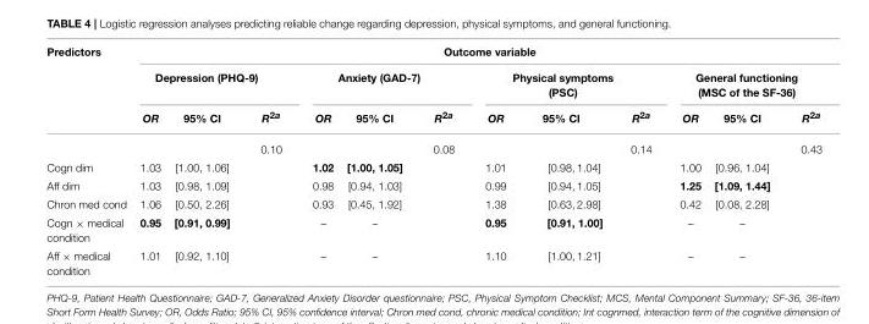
<table><thead><tr><td rowspan="3">Predictors</td><td colspan="12">Outcome variable</td></tr><tr><td colspan="3">Depression (PHQ-9)</td><td colspan="3">Anxiety (GAD-7)</td><td colspan="3">Physical symptoms (PSC)</td><td colspan="3">General functioning (MSC of the SF-36)</td></tr><tr><td>OR</td><td>95% CI</td><td>R<sup>2a</sup></td><td>OR</td><td>95% CI</td><td>R2a</td><td>OR</td><td>95% CI</td><td>R2a</td><td>OR</td><td>95% CI</td><td>R2a</td></tr></thead><tbody><tr><td></td><td></td><td></td><td>0.10</td><td></td><td></td><td>0.08</td><td></td><td></td><td>0.14</td><td></td><td></td><td>0.43</td></tr><tr><td>Cogn dim</td><td>1.03</td><td>[1.00, 1.06]</td><td></td><td>1.02</td><td>[1.00, 1.05]</td><td></td><td>1.01</td><td>[0.98, 1.04]</td><td></td><td>1.00</td><td>[0.96, 1.04]</td><td></td></tr><tr><td>Aff dim</td><td>1.03</td><td>[0.98, 1.09]</td><td></td><td>0.98</td><td>[0.94, 1.03]</td><td></td><td>0.99</td><td>[0.94, 1.05]</td><td></td><td>1.25</td><td>[1.09, 1.44]</td><td></td></tr><tr><td>Chron med cond</td><td>1.06</td><td>[0.50, 2.26]</td><td></td><td>0.93</td><td>[0.45, 1.92]</td><td></td><td>1.38</td><td>[0.63, 2.98]</td><td></td><td>0.42</td><td>[0.08, 2.28]</td><td></td></tr><tr><td>Cogn × medical condition</td><td>0.95</td><td>[0.91, 0.99]</td><td></td><td>–</td><td>–</td><td></td><td>0.95</td><td>[0.91, 1.00]</td><td></td><td>–</td><td>–</td><td></td></tr><tr><td>Aff × medical condition</td><td>1.01</td><td>[0.92, 1.10]</td><td></td><td>–</td><td>–</td><td></td><td>1.10</td><td>[1.00, 1.21]</td><td></td><td>–</td><td>–</td><td></td></tr></tbody></table>